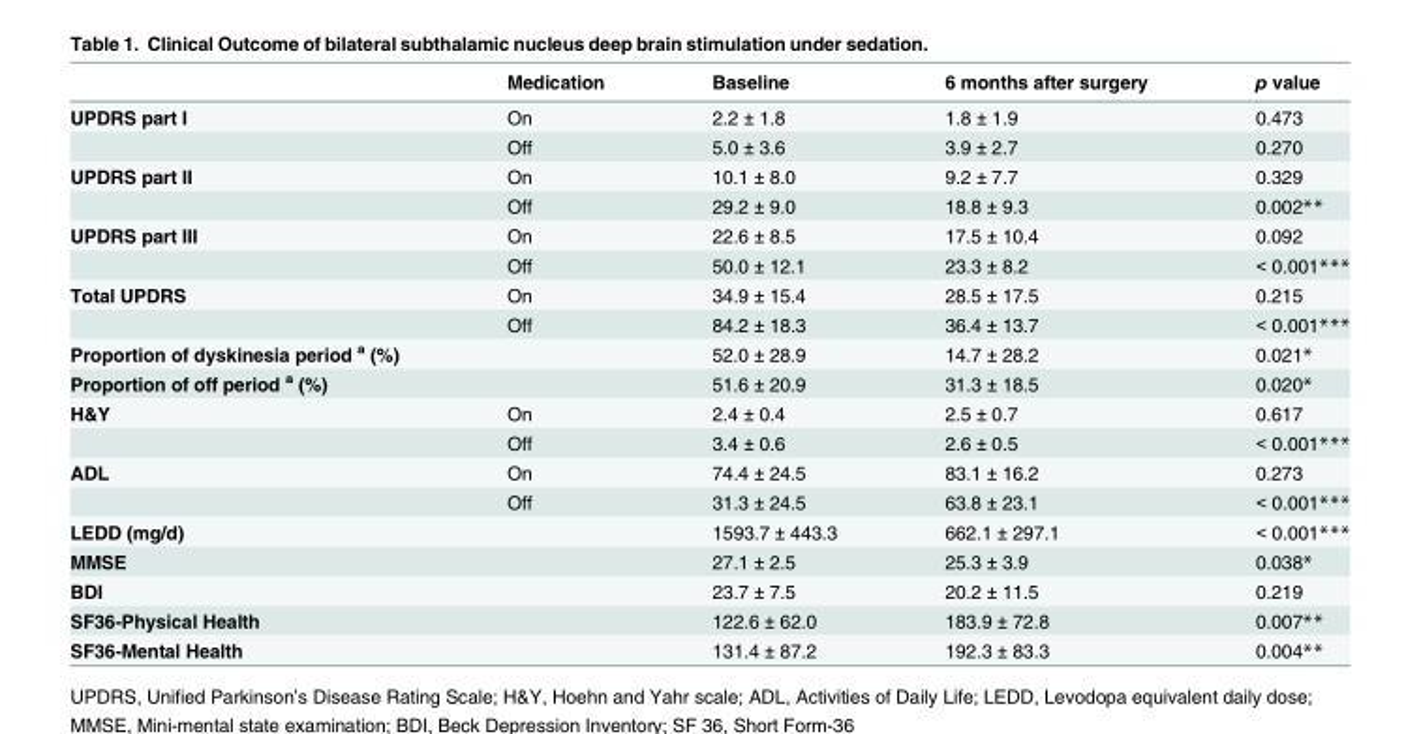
<table><thead><tr><td></td><td>Medication</td><td>Baseline</td><td>6 months after surgery</td><td>p value</td></tr></thead><tbody><tr><td rowspan="2">UPDRS part I</td><td>On</td><td>2.2 ± 1.8</td><td>1.8 ± 1.9</td><td>0.473</td></tr><tr><td>Off</td><td>5.0 ± 3.6</td><td>3.9 ± 2.7</td><td>0.270</td></tr><tr><td rowspan="2">UPDRS part II</td><td>On</td><td>10.1 ± 8.0</td><td>9.2 ± 7.7</td><td>0.329</td></tr><tr><td>Off</td><td>29.2 ± 9.0</td><td>18.8 ± 9.3</td><td>0.002**</td></tr><tr><td rowspan="2">UPDRS part III</td><td>On</td><td>22.6 ± 8.5</td><td>17.5 ± 10.4</td><td>0.092</td></tr><tr><td>Off</td><td>50.0 ± 12.1</td><td>23.3 ± 8.2</td><td>&lt; 0.001***</td></tr><tr><td rowspan="2">Total UPDRS</td><td>On</td><td>34.9 ± 15.4</td><td>28.5 ± 17.5</td><td>0.215</td></tr><tr><td>Off</td><td>84.2 ± 18.3</td><td>36.4 ± 13.7</td><td>&lt; 0.001***</td></tr><tr><td>Proportion of dyskinesia period <sup>a</sup> (%)</td><td></td><td>52.0 ± 28.9</td><td>14.7 ± 28.2</td><td>0.021*</td></tr><tr><td>Proportion of off period <sup>a</sup> (%)</td><td></td><td>51.6 ± 20.9</td><td>31.3 ± 18.5</td><td>0.020*</td></tr><tr><td rowspan="2">H&amp;Y</td><td>On</td><td>2.4 ± 0.4</td><td>2.5 ± 0.7</td><td>0.617</td></tr><tr><td>Off</td><td>3.4 ± 0.6</td><td>2.6 ± 0.5</td><td>&lt; 0.001***</td></tr><tr><td rowspan="2">ADL</td><td>On</td><td>74.4 ± 24.5</td><td>83.1 ± 16.2</td><td>0.273</td></tr><tr><td>Off</td><td>31.3 ± 24.5</td><td>63.8 ± 23.1</td><td>&lt; 0.001***</td></tr><tr><td>LEDD (mg/d)</td><td></td><td>1593.7 ± 443.3</td><td>662.1 ± 297.1</td><td>&lt; 0.001***</td></tr><tr><td>MMSE</td><td></td><td>27.1 ± 2.5</td><td>25.3 ± 3.9</td><td>0.038*</td></tr><tr><td>BDI</td><td></td><td>23.7 ± 7.5</td><td>20.2 ± 11.5</td><td>0.219</td></tr><tr><td>SF36-Physical Health</td><td></td><td>122.6 ± 62.0</td><td>183.9 ± 72.8</td><td>0.007**</td></tr><tr><td>SF36-Mental Health</td><td></td><td>131.4 ± 87.2</td><td>192.3 ± 83.3</td><td>0.004**</td></tr></tbody></table>